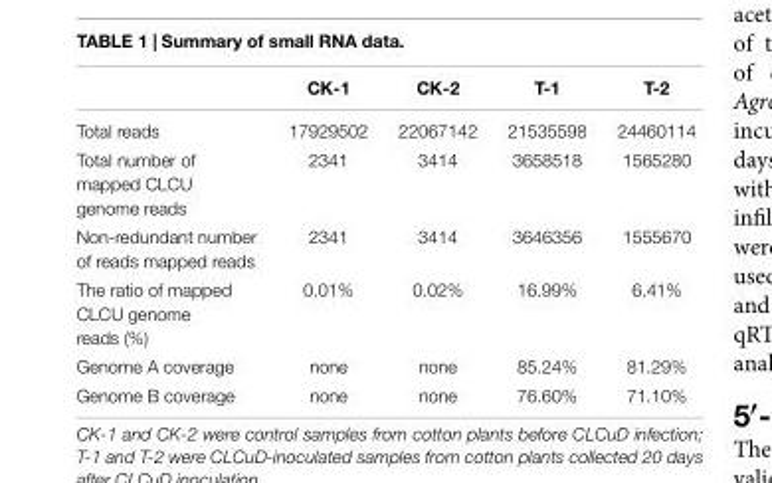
<table><thead><tr><td></td><td>CK-1</td><td>CK-2</td><td>T-1</td><td>T-2</td></tr></thead><tbody><tr><td>Total reads</td><td>17929502</td><td>22067142</td><td>21535598</td><td>24460114</td></tr><tr><td>Total number of mapped CLCU genome reads</td><td>2341</td><td>3414</td><td>3658518</td><td>1565280</td></tr><tr><td>Non-redundant number of reads mapped reads</td><td>2341</td><td>3414</td><td>3646356</td><td>1555670</td></tr><tr><td>The ratio of mapped CLCU genome reads (%)</td><td>0.01%</td><td>0.02%</td><td>16.99%</td><td>6.41%</td></tr><tr><td>Genome A coverage</td><td>none</td><td>none</td><td>85.24%</td><td>81.29%</td></tr><tr><td>Genome B coverage</td><td>none</td><td>none</td><td>76.60%</td><td>71.10%</td></tr></tbody></table>